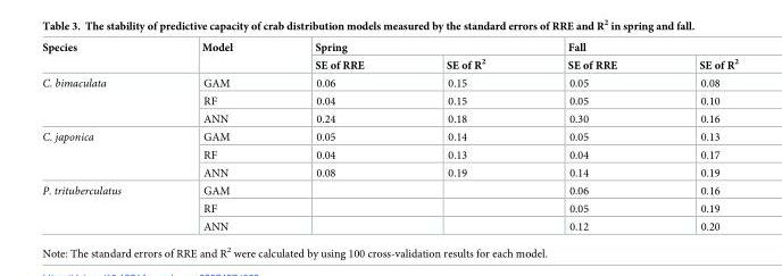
<table><thead><tr><td rowspan="2">Species</td><td rowspan="2">Model</td><td colspan="2">Spring</td><td colspan="2">Fall</td></tr><tr><td>SE of RRE</td><td>SE of R<sup>2</sup></td><td>SE of RRE</td><td>SE of R<sup>2</sup></td></tr></thead><tbody><tr><td rowspan="3">C. bimaculata</td><td>GAM</td><td>0.06</td><td>0.15</td><td>0.05</td><td>0.08</td></tr><tr><td>RF</td><td>0.04</td><td>0.15</td><td>0.05</td><td>0.10</td></tr><tr><td>ANN</td><td>0.24</td><td>0.18</td><td>0.30</td><td>0.16</td></tr><tr><td rowspan="3">C. japonica</td><td>GAM</td><td>0.05</td><td>0.14</td><td>0.05</td><td>0.13</td></tr><tr><td>RF</td><td>0.04</td><td>0.13</td><td>0.04</td><td>0.17</td></tr><tr><td>ANN</td><td>0.08</td><td>0.19</td><td>0.14</td><td>0.19</td></tr><tr><td rowspan="3">P. trituberculatus</td><td>GAM</td><td></td><td></td><td>0.06</td><td>0.16</td></tr><tr><td>RF</td><td></td><td></td><td>0.05</td><td>0.19</td></tr><tr><td>ANN</td><td></td><td></td><td>0.12</td><td>0.20</td></tr></tbody></table>